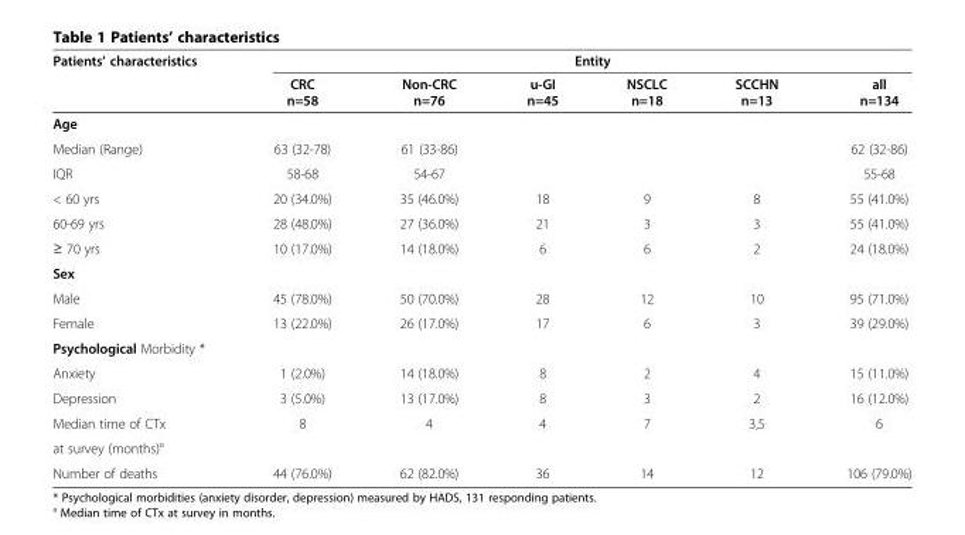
<table><thead><tr><td rowspan="2">Patients’ characteristics</td><td colspan="6">Entity</td></tr><tr><td>CRC n=58</td><td>Non-CRC n=76</td><td>u-GI n=45</td><td>NSCLC n=18</td><td>SCCHN n=13</td><td>all n=134</td></tr></thead><tbody><tr><td colspan="7">Age</td></tr><tr><td>Median (Range)</td><td>63 (32-78)</td><td>61 (33-86)</td><td></td><td></td><td></td><td>62 (32-86)</td></tr><tr><td>IQR</td><td>58-68</td><td>54-67</td><td></td><td></td><td></td><td>55-68</td></tr><tr><td>&lt; 60 yrs</td><td>20 (34.0%)</td><td>35 (46.0%)</td><td>18</td><td>9</td><td>8</td><td>55 (41.0%)</td></tr><tr><td>60-69 yrs</td><td>28 (48.0%)</td><td>27 (36.0%)</td><td>21</td><td>3</td><td>3</td><td>55 (41.0%)</td></tr><tr><td>≥ 70 yrs</td><td>10 (17.0%)</td><td>14 (18.0%)</td><td>6</td><td>6</td><td>2</td><td>24 (18.0%)</td></tr><tr><td colspan="7">Sex</td></tr><tr><td>Male</td><td>45 (78.0%)</td><td>50 (70.0%)</td><td>28</td><td>12</td><td>10</td><td>95 (71.0%)</td></tr><tr><td>Female</td><td>13 (22.0%)</td><td>26 (17.0%)</td><td>17</td><td>6</td><td>3</td><td>39 (29.0%)</td></tr><tr><td colspan="7">Psychological Morbidity *</td></tr><tr><td>Anxiety</td><td>1 (2.0%)</td><td>14 (18.0%)</td><td>8</td><td>2</td><td>4</td><td>15 (11.0%)</td></tr><tr><td>Depression</td><td>3 (5.0%)</td><td>13 (17.0%)</td><td>8</td><td>3</td><td>2</td><td>16 (12.0%)</td></tr><tr><td>Median time of CTx</td><td>8</td><td>4</td><td>4</td><td>7</td><td>3,5</td><td>6</td></tr><tr><td colspan="7">at survey (months)°</td></tr><tr><td>Number of deaths</td><td>44 (76.0%)</td><td>62 (82.0%)</td><td>36</td><td>14</td><td>12</td><td>106 (79.0%)</td></tr></tbody></table>